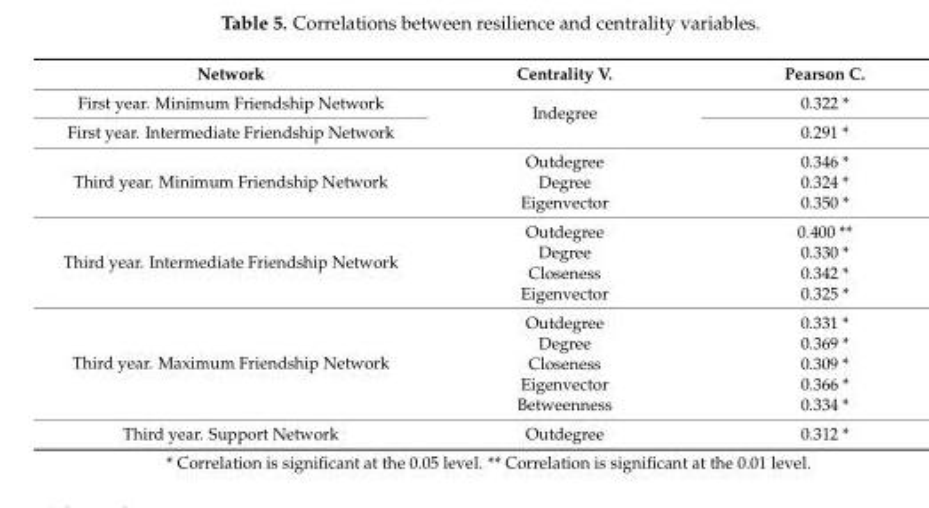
<table><thead><tr><td>Network</td><td>Centrality V.</td><td>Pearson C.</td></tr></thead><tbody><tr><td>First year. Minimum Friendship Network</td><td rowspan="2">Indegree</td><td>0.322 *</td></tr><tr><td>First year. Intermediate Friendship Network</td><td>0.291 *</td></tr><tr><td rowspan="3">Third year. Minimum Friendship Network</td><td>Outdegree</td><td>0.346 *</td></tr><tr><td>Degree</td><td>0.324 *</td></tr><tr><td>Eigenvector</td><td>0.350 *</td></tr><tr><td rowspan="4">Third year. Intermediate Friendship Network</td><td>Outdegree</td><td>0.400 **</td></tr><tr><td>Degree</td><td>0.330 *</td></tr><tr><td>Closeness</td><td>0.342 *</td></tr><tr><td>Eigenvector</td><td>0.325 *</td></tr><tr><td rowspan="5">Third year. Maximum Friendship Network</td><td>Outdegree</td><td>0.331 *</td></tr><tr><td>Degree</td><td>0.369 *</td></tr><tr><td>Closeness</td><td>0.309 *</td></tr><tr><td>Eigenvector</td><td>0.366 *</td></tr><tr><td>Betweenness</td><td>0.334 *</td></tr><tr><td>Third year. Support Network</td><td>Outdegree</td><td>0.312 *</td></tr></tbody></table>